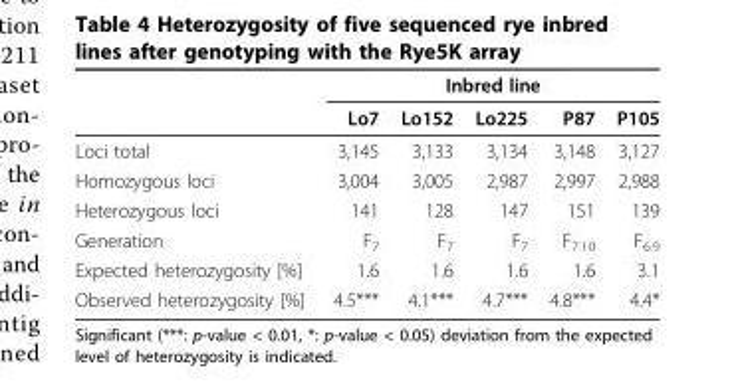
<table><thead><tr><td rowspan="2"></td><td colspan="5">Inbred line</td></tr><tr><td>Lo7</td><td>Lo152</td><td>Lo225</td><td>P87</td><td>P105</td></tr></thead><tbody><tr><td>Loci total</td><td>3,145</td><td>3,133</td><td>3,134</td><td>3,148</td><td>3,127</td></tr><tr><td>Homozygous loci</td><td>3,004</td><td>3,005</td><td>2,987</td><td>2,997</td><td>2,988</td></tr><tr><td>Heterozygous loci</td><td>141</td><td>128</td><td>147</td><td>151</td><td>139</td></tr><tr><td>Generation</td><td>F<sub>7</sub></td><td>F<sub>7</sub></td><td>F<sub>7</sub></td><td>F<sub>7:10</sub></td><td>F<sub>6:9</sub></td></tr><tr><td>Expected heterozygosity [%]</td><td>1.6</td><td>1.6</td><td>1.6</td><td>1.6</td><td>3.1</td></tr><tr><td>Observed heterozygosity [%]</td><td>4.5***</td><td>4.1***</td><td>4.7***</td><td>4.8***</td><td>4.4*</td></tr></tbody></table>